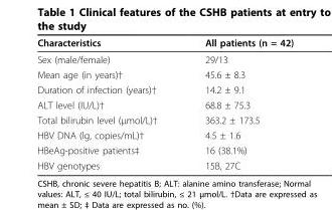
<table><thead><tr><td>Characteristics</td><td>All patients (n = 42)</td></tr></thead><tbody><tr><td>Sex (male/female)</td><td>29/13</td></tr><tr><td>Mean age (in years)†</td><td>45.6 ± 8.3</td></tr><tr><td>Duration of infection (years)†</td><td>14.2 ± 9.1</td></tr><tr><td>ALT level (IU/L)†</td><td>68.8 ± 75.3</td></tr><tr><td>Total bilirubin level (μmol/L)†</td><td>363.2 ± 173.5</td></tr><tr><td>HBV DNA (lg, copies/mL)†</td><td>4.5 ± 1.6</td></tr><tr><td>HBeAg-positive patients‡</td><td>16 (38.1%)</td></tr><tr><td>HBV genotypes</td><td>15B, 27C</td></tr></tbody></table>